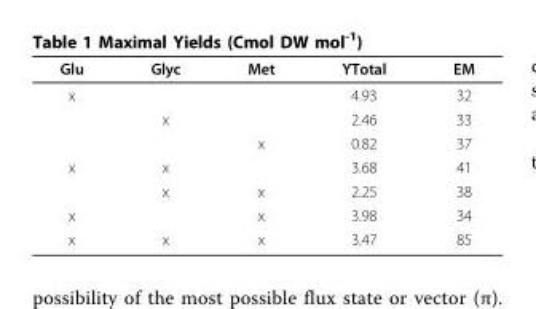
<table><thead><tr><td>Glu</td><td>Glyc</td><td>Met</td><td>YTotal</td><td>EM</td></tr></thead><tbody><tr><td rowspan="3">x</td><td></td><td></td><td>4.93</td><td>32</td></tr><tr><td>x</td><td></td><td>2.46</td><td>33</td></tr><tr><td></td><td>x</td><td>0.82</td><td>37</td></tr><tr><td rowspan="2">x</td><td>x</td><td></td><td>3.68</td><td>41</td></tr><tr><td>x</td><td>x</td><td>2.25</td><td>38</td></tr><tr><td>x</td><td></td><td>x</td><td>3.98</td><td>34</td></tr><tr><td>x</td><td>x</td><td>x</td><td>3.47</td><td>85</td></tr></tbody></table>